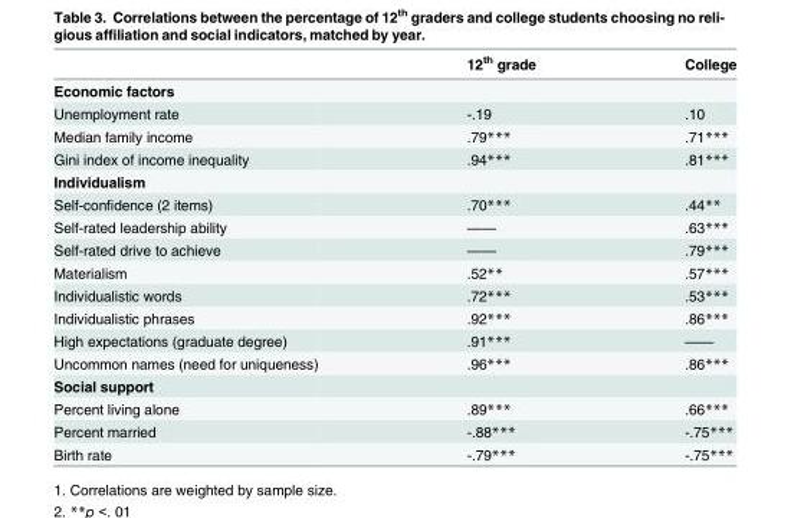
<table><thead><tr><td></td><td>12<sup>th</sup> grade</td><td>College</td></tr></thead><tbody><tr><td colspan="3">Economic factors</td></tr><tr><td>Unemployment rate</td><td>-.19</td><td>.10</td></tr><tr><td>Median family income</td><td>.79***</td><td>.71***</td></tr><tr><td>Gini index of income inequality</td><td>.94***</td><td>.81***</td></tr><tr><td colspan="3">Individualism</td></tr><tr><td>Self-confidence (2 items)</td><td>.70***</td><td>.44**</td></tr><tr><td>Self-rated leadership ability</td><td>——</td><td>.63***</td></tr><tr><td>Self-rated drive to achieve</td><td>——</td><td>.79***</td></tr><tr><td>Materialism</td><td>.52**</td><td>.57***</td></tr><tr><td>Individualistic words</td><td>.72***</td><td>.53***</td></tr><tr><td>Individualistic phrases</td><td>.92***</td><td>.86***</td></tr><tr><td>High expectations (graduate degree)</td><td>.91***</td><td>——</td></tr><tr><td>Uncommon names (need for uniqueness)</td><td>.96***</td><td>.86***</td></tr><tr><td colspan="3">Social support</td></tr><tr><td>Percent living alone</td><td>.89***</td><td>.66***</td></tr><tr><td>Percent married</td><td>-.88***</td><td>-.75***</td></tr><tr><td>Birth rate</td><td>-.79***</td><td>-.75***</td></tr></tbody></table>